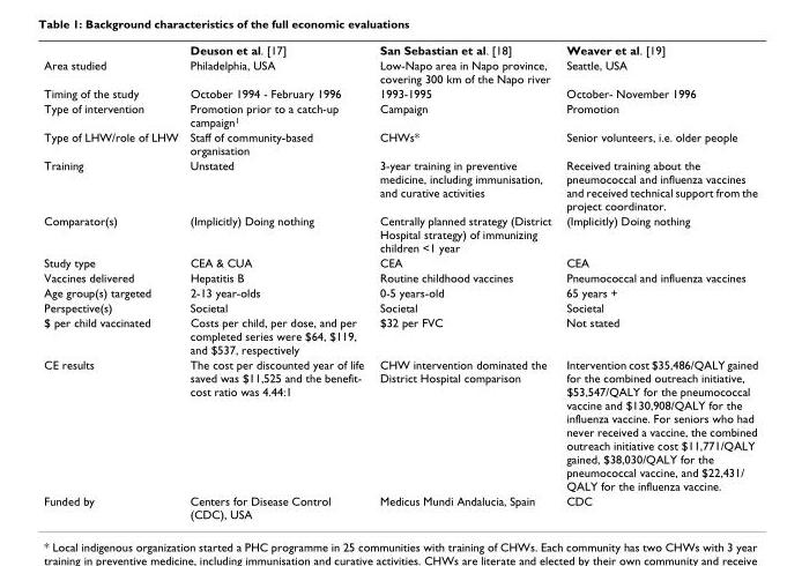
<table><thead><tr><td></td><td>Deuson et al. [17]</td><td>San Sebastian et al. [18]</td><td>Weaver et al. [19]</td></tr></thead><tbody><tr><td>Area studied</td><td>Philadelphia, USA</td><td>Low-Napo area in Napo province, covering 300 km of the Napo river</td><td>Seattle, USA</td></tr><tr><td>Timing of the study</td><td>October 1994 - February 1996</td><td>1993-1995</td><td>October- November 1996</td></tr><tr><td>Type of intervention</td><td>Promotion prior to a catch-up campaign<sup>1</sup></td><td>Campaign</td><td>Promotion</td></tr><tr><td>Type of LHW/role of LHW</td><td>Staff of community-based organisation</td><td>CHWs*</td><td>Senior volunteers, i.e. older people</td></tr><tr><td>Training</td><td>Unstated</td><td>3-year training in preventive medicine, including immunisation, and curative activities</td><td>Received training about the pneumococcal and influenza vaccines and received technical support from the project coordinator.</td></tr><tr><td>Comparator(s)</td><td>(Implicitly) Doing nothing</td><td>Centrally planned strategy (District Hospital strategy) of immunizing children &lt;1 year</td><td>(Implicitly) Doing nothing</td></tr><tr><td>Study type</td><td>CEA &amp; CUA</td><td>CEA</td><td>CEA</td></tr><tr><td>Vaccines delivered</td><td>Hepatitis B</td><td>Routine childhood vaccines</td><td>Pneumococcal and influenza vaccines</td></tr><tr><td>Age group(s) targeted</td><td>2-13 year-olds</td><td>0-5 years-old</td><td>65 years +</td></tr><tr><td>Perspective(s)</td><td>Societal</td><td>Societal</td><td>Societal</td></tr><tr><td>$ per child vaccinated</td><td>Costs per child, per dose, and per completed series were $64, $119, and $537, respectively</td><td>$32 per FVC</td><td>Not stated</td></tr><tr><td>CE results</td><td>The cost per discounted year of life saved was $11,525 and the benefit- cost ratio was 4.44:1</td><td>CHW intervention dominated the District Hospital comparison</td><td>Intervention cost $35,486/QALY gained for the combined outreach initiative, $53,547/QALY for the pneumococcal vaccine and $130,908/QALY for the influenza vaccine. For seniors who had never received a vaccine, the combined outreach initiative cost $11,771/QALY gained, $38,030/QALY for the pneumococcal vaccine, and $22,431/ QALY for the influenza vaccine.</td></tr><tr><td>Funded by</td><td>Centers for Disease Control (CDC), USA</td><td>Medicus Mundi Andalucia, Spain</td><td>CDC</td></tr></tbody></table>